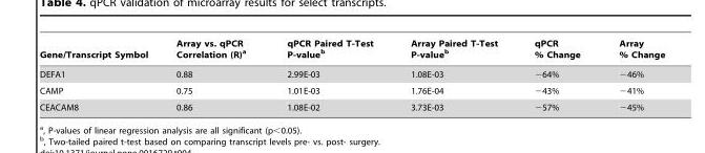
<table><thead><tr><td>Gene/Transcript Symbol</td><td>Array vs. qPCR Correlation (R)<sup>a</sup></td><td>qPCR Paired T-Test P-value<sup>b</sup></td><td>Array Paired T-Test P-value<sup>b</sup></td><td>qPCR % Change</td><td>Array % Change</td></tr></thead><tbody><tr><td>DEFA1</td><td>0.88</td><td>2.99E-03</td><td>1.08E-03</td><td>−64%</td><td>−46%</td></tr><tr><td>CAMP</td><td>0.75</td><td>1.01E-03</td><td>1.76E-04</td><td>−43%</td><td>−41%</td></tr><tr><td>CEACAM8</td><td>0.86</td><td>1.08E-02</td><td>3.73E-03</td><td>−57%</td><td>−45%</td></tr></tbody></table>